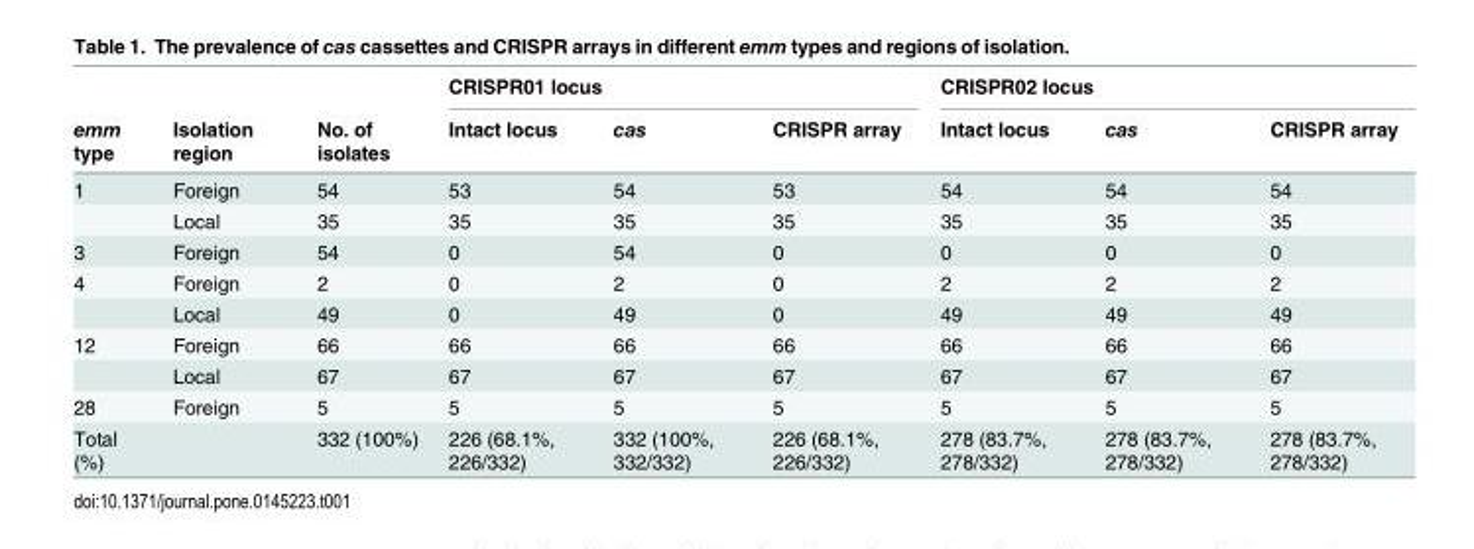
<table><thead><tr><td rowspan="2">emm type</td><td rowspan="2">Isolation region</td><td rowspan="2">No. of isolates</td><td colspan="3">CRISPR01 locus</td><td colspan="3">CRISPR02 locus</td></tr><tr><td>Intact locus</td><td>cas</td><td>CRISPR array</td><td>Intact locus</td><td>cas</td><td>CRISPR array</td></tr></thead><tbody><tr><td rowspan="2">1</td><td>Foreign</td><td>54</td><td>53</td><td>54</td><td>53</td><td>54</td><td>54</td><td>54</td></tr><tr><td>Local</td><td>35</td><td>35</td><td>35</td><td>35</td><td>35</td><td>35</td><td>35</td></tr><tr><td>3</td><td>Foreign</td><td>54</td><td>0</td><td>54</td><td>0</td><td>0</td><td>0</td><td>0</td></tr><tr><td rowspan="2">4</td><td>Foreign</td><td>2</td><td>0</td><td>2</td><td>0</td><td>2</td><td>2</td><td>2</td></tr><tr><td>Local</td><td>49</td><td>0</td><td>49</td><td>0</td><td>49</td><td>49</td><td>49</td></tr><tr><td rowspan="2">12</td><td>Foreign</td><td>66</td><td>66</td><td>66</td><td>66</td><td>66</td><td>66</td><td>66</td></tr><tr><td>Local</td><td>67</td><td>67</td><td>67</td><td>67</td><td>67</td><td>67</td><td>67</td></tr><tr><td>28</td><td>Foreign</td><td>5</td><td>5</td><td>5</td><td>5</td><td>5</td><td>5</td><td>5</td></tr><tr><td>Total (%)</td><td></td><td>332 (100%)</td><td>226 (68.1%, 226/332)</td><td>332 (100%, 332/332)</td><td>226 (68.1%, 226/332)</td><td>278 (83.7%, 278/332)</td><td>278 (83.7%, 278/332)</td><td>278 (83.7%, 278/332)</td></tr></tbody></table>